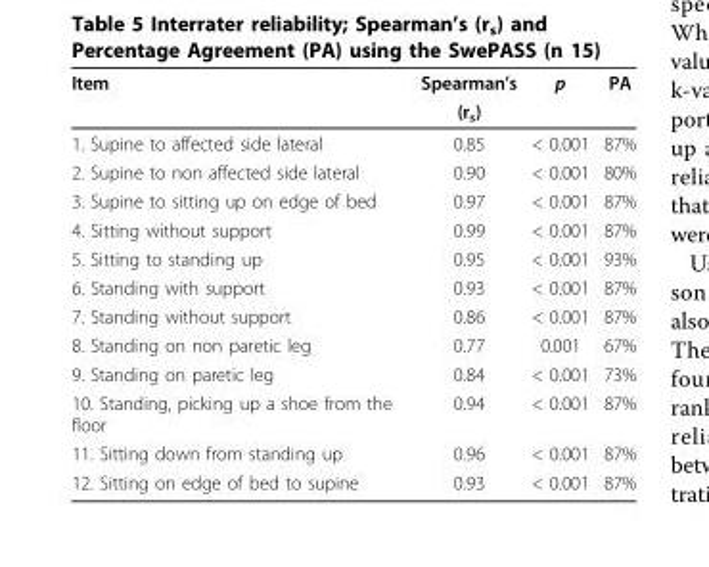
<table><thead><tr><td rowspan="2">Item</td><td rowspan="2">Spearman’s (r<sub>s</sub>)</td><td rowspan="2">p</td><td rowspan="2">PA</td></tr><tr></tr></thead><tbody><tr><td>1. Supine to affected side lateral</td><td>0.85</td><td>&lt; 0.001</td><td>87%</td></tr><tr><td>2. Supine to non affected side lateral</td><td>0.90</td><td>&lt; 0.001</td><td>80%</td></tr><tr><td>3. Supine to sitting up on edge of bed</td><td>0.97</td><td>&lt; 0.001</td><td>87%</td></tr><tr><td>4. Sitting without support</td><td>0.99</td><td>&lt; 0.001</td><td>87%</td></tr><tr><td>5. Sitting to standing up</td><td>0.95</td><td>&lt; 0.001</td><td>93%</td></tr><tr><td>6. Standing with support</td><td>0.93</td><td>&lt; 0.001</td><td>87%</td></tr><tr><td>7. Standing without support</td><td>0.86</td><td>&lt; 0.001</td><td>87%</td></tr><tr><td>8. Standing on non paretic leg</td><td>0.77</td><td>0.001</td><td>67%</td></tr><tr><td>9. Standing on paretic leg</td><td>0.84</td><td>&lt; 0.001</td><td>73%</td></tr><tr><td>10. Standing, picking up a shoe from the floor</td><td>0.94</td><td>&lt; 0.001</td><td>87%</td></tr><tr><td>11. Sitting down from standing up</td><td>0.96</td><td>&lt; 0.001</td><td>87%</td></tr><tr><td>12. Sitting on edge of bed to supine</td><td>0.93</td><td>&lt; 0.001</td><td>87%</td></tr></tbody></table>